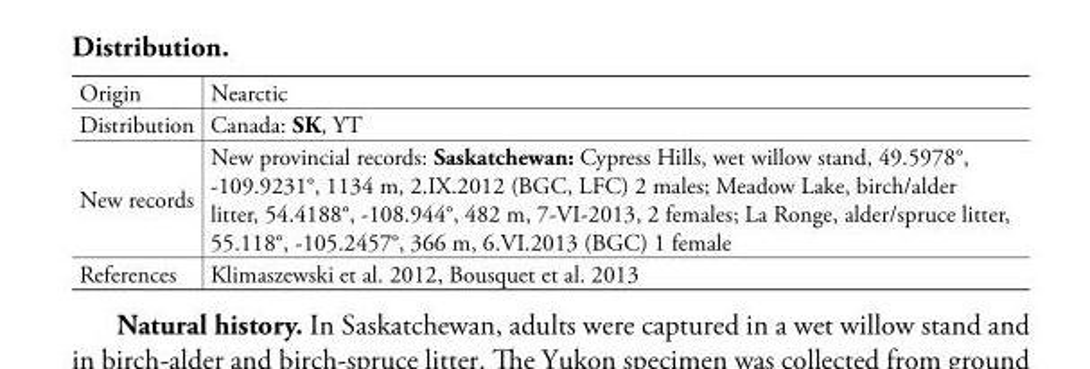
<table><tbody><tr><td>Origin</td><td>Nearctic</td></tr><tr><td>Distribution</td><td>Canada: SK, YT</td></tr><tr><td>New records</td><td>New provincial records: Saskatchewan: Cypress Hills, wet willow stand, 49.5978°, -109.9231°, 1134 m, 2.IX.2012 (BGC, LFC) 2 males; Meadow Lake, birch/alder litter, 54.4188°, -108.944°, 482 m, 7-VI-2013, 2 females; La Ronge, alder/spruce litter, 55.118°, -105.2457°, 366 m, 6.VI.2013 (BGC) 1 female</td></tr><tr><td>References</td><td>Klimaszewski et al. 2012, Bousquet et al. 2013</td></tr></tbody></table>